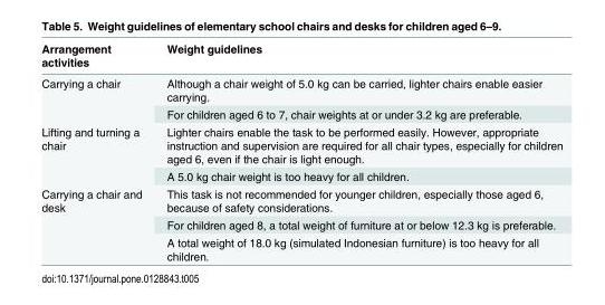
<table><thead><tr><td>Arrangement activities</td><td>Weight guidelines</td></tr></thead><tbody><tr><td rowspan="2">Carrying a chair</td><td>Although a chair weight of 5.0 kg can be carried, lighter chairs enable easier carrying.</td></tr><tr><td>For children aged 6 to 7, chair weights at or under 3.2 kg are preferable.</td></tr><tr><td rowspan="2">Lifting and turning a chair</td><td>Lighter chairs enable the task to be performed easily. However, appropriate instruction and supervision are required for all chair types, especially for children aged 6, even if the chair is light enough.</td></tr><tr><td>A 5.0 kg chair weight is too heavy for all children.</td></tr><tr><td rowspan="3">Carrying a chair and desk</td><td>This task is not recommended for younger children, especially those aged 6, because of safety considerations.</td></tr><tr><td>For children aged 8, a total weight of furniture at or below 12.3 kg is preferable.</td></tr><tr><td>A total weight of 18.0 kg (simulated Indonesian furniture) is too heavy for all children.</td></tr></tbody></table>